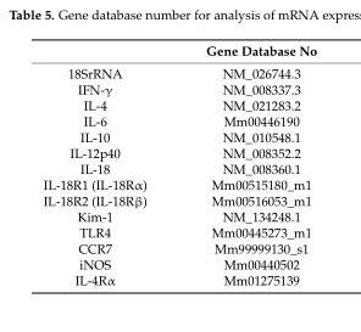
<table><thead><tr><td></td><td>Gene Database No</td></tr></thead><tbody><tr><td>18SrRNA</td><td>NM_026744.3</td></tr><tr><td>IFN-γ</td><td>NM_008337.3</td></tr><tr><td>IL-4</td><td>NM_021283.2</td></tr><tr><td>IL-6</td><td>Mm00446190</td></tr><tr><td>IL-10</td><td>NM_010548.1</td></tr><tr><td>IL-12p40</td><td>NM_008352.2</td></tr><tr><td>IL-18</td><td>NM_008360.1</td></tr><tr><td>IL-18R1 (IL-18Rα)</td><td>Mm00515180_m1</td></tr><tr><td>IL-18R2 (IL-18Rβ)</td><td>Mm00516053_m1</td></tr><tr><td>Kim-1</td><td>NM_134248.1</td></tr><tr><td>TLR4</td><td>Mm00445273_m1</td></tr><tr><td>CCR7</td><td>Mm99999130_s1</td></tr><tr><td>iNOS</td><td>Mm00440502</td></tr><tr><td>IL-4Rα</td><td>Mm01275139</td></tr></tbody></table>